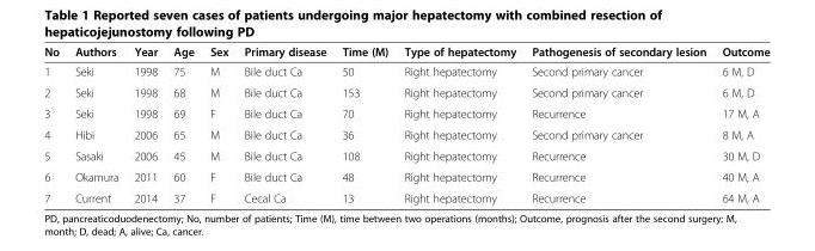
<table><thead><tr><td>No</td><td>Authors</td><td>Year</td><td>Age</td><td>Sex</td><td>Primary disease</td><td>Time (M)</td><td>Type of hepatectomy</td><td>Pathogenesis of secondary lesion</td><td>Outcome</td></tr></thead><tbody><tr><td>1</td><td>Seki</td><td>1998</td><td>75</td><td>M</td><td>Bile duct Ca</td><td>50</td><td>Right hepatectomy</td><td>Second primary cancer</td><td>6 M, D</td></tr><tr><td>2</td><td>Seki</td><td>1998</td><td>68</td><td>M</td><td>Bile duct Ca</td><td>153</td><td>Right hepatectomy</td><td>Second primary cancer</td><td>6 M, D</td></tr><tr><td>3</td><td>Seki</td><td>1998</td><td>69</td><td>F</td><td>Bile duct Ca</td><td>70</td><td>Right hepatectomy</td><td>Recurrence</td><td>17 M, A</td></tr><tr><td>4</td><td>Hibi</td><td>2006</td><td>65</td><td>M</td><td>Bile duct Ca</td><td>36</td><td>Right hepatectomy</td><td>Second primary cancer</td><td>8 M, A</td></tr><tr><td>5</td><td>Sasaki</td><td>2006</td><td>45</td><td>M</td><td>Bile duct Ca</td><td>108</td><td>Right hepatectomy</td><td>Recurrence</td><td>30 M, D</td></tr><tr><td>6</td><td>Okamura</td><td>2011</td><td>60</td><td>F</td><td>Bile duct Ca</td><td>48</td><td>Right hepatectomy</td><td>Recurrence</td><td>40 M, A</td></tr><tr><td>7</td><td>Current</td><td>2014</td><td>37</td><td>F</td><td>Cecal Ca</td><td>13</td><td>Right hepatectomy</td><td>Recurrence</td><td>64 M, A</td></tr></tbody></table>